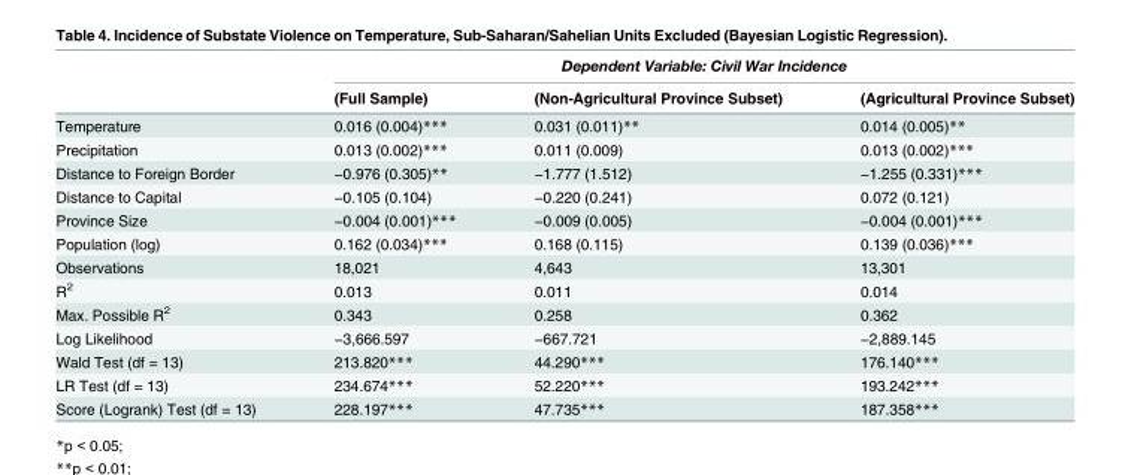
<table><thead><tr><td rowspan="2"></td><td colspan="3">Dependent Variable: Civil War Incidence</td></tr><tr><td>(Full Sample)</td><td>(Non-Agricultural Province Subset)</td><td>(Agricultural Province Subset)</td></tr></thead><tbody><tr><td>Temperature</td><td>0.016 (0.004)***</td><td>0.031 (0.011)**</td><td>0.014 (0.005)**</td></tr><tr><td>Precipitation</td><td>0.013 (0.002)***</td><td>0.011 (0.009)</td><td>0.013 (0.002)***</td></tr><tr><td>Distance to Foreign Border</td><td>−0.976 (0.305)**</td><td>−1.777 (1.512)</td><td>−1.255 (0.331)***</td></tr><tr><td>Distance to Capital</td><td>−0.105 (0.104)</td><td>−0.220 (0.241)</td><td>0.072 (0.121)</td></tr><tr><td>Province Size</td><td>−0.004 (0.001)***</td><td>−0.009 (0.005)</td><td>−0.004 (0.001)***</td></tr><tr><td>Population (log)</td><td>0.162 (0.034)***</td><td>0.168 (0.115)</td><td>0.139 (0.036)***</td></tr><tr><td>Observations</td><td>18,021</td><td>4,643</td><td>13,301</td></tr><tr><td>R<sup>2</sup></td><td>0.013</td><td>0.011</td><td>0.014</td></tr><tr><td>Max. Possible R<sup>2</sup></td><td>0.343</td><td>0.258</td><td>0.362</td></tr><tr><td>Log Likelihood</td><td>−3,666.597</td><td>−667.721</td><td>−2,889.145</td></tr><tr><td>Wald Test (df = 13)</td><td>213.820***</td><td>44.290***</td><td>176.140***</td></tr><tr><td>LR Test (df = 13)</td><td>234.674***</td><td>52.220***</td><td>193.242***</td></tr><tr><td>Score (Logrank) Test (df = 13)</td><td>228.197***</td><td>47.735***</td><td>187.358***</td></tr></tbody></table>